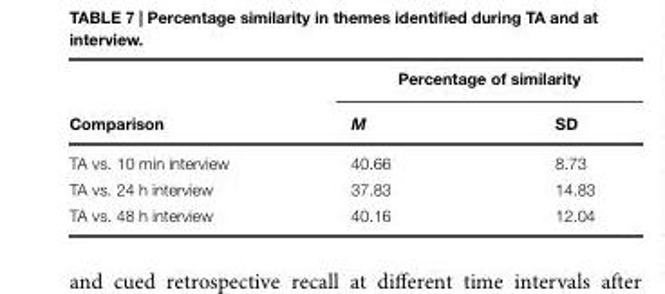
<table><thead><tr><td rowspan="2">Comparison</td><td colspan="2">Percentage of similarity</td></tr><tr><td>M</td><td>SD</td></tr></thead><tbody><tr><td>TA vs. 10 min interview</td><td>40.66</td><td>8.73</td></tr><tr><td>TA vs. 24 h interview</td><td>37.83</td><td>14.83</td></tr><tr><td>TA vs. 48 h interview</td><td>40.16</td><td>12.04</td></tr></tbody></table>